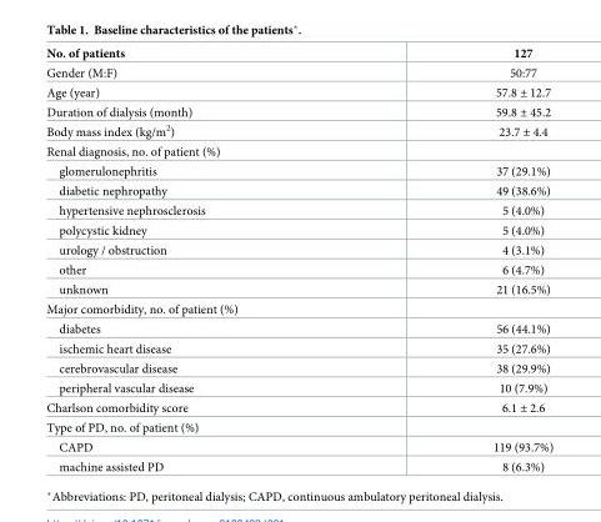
<table><thead><tr><td>No. of patients</td><td>127</td></tr></thead><tbody><tr><td>Gender (M:F)</td><td>50:77</td></tr><tr><td>Age (year)</td><td>57.8 ± 12.7</td></tr><tr><td>Duration of dialysis (month)</td><td>59.8 ± 45.2</td></tr><tr><td>Body mass index (kg/m<sup>2</sup>)</td><td>23.7 ± 4.4</td></tr><tr><td colspan="2">Renal diagnosis, no. of patient (%)</td></tr><tr><td>glomerulonephritis</td><td>37 (29.1%)</td></tr><tr><td>diabetic nephropathy</td><td>49 (38.6%)</td></tr><tr><td>hypertensive nephrosclerosis</td><td>5 (4.0%)</td></tr><tr><td>polycystic kidney</td><td>5 (4.0%)</td></tr><tr><td>urology / obstruction</td><td>4 (3.1%)</td></tr><tr><td>other</td><td>6 (4.7%)</td></tr><tr><td>unknown</td><td>21 (16.5%)</td></tr><tr><td colspan="2">Major comorbidity, no. of patient (%)</td></tr><tr><td>diabetes</td><td>56 (44.1%)</td></tr><tr><td>ischemic heart disease</td><td>35 (27.6%)</td></tr><tr><td>cerebrovascular disease</td><td>38 (29.9%)</td></tr><tr><td>peripheral vascular disease</td><td>10 (7.9%)</td></tr><tr><td>Charlson comorbidity score</td><td>6.1 ± 2.6</td></tr><tr><td colspan="2">Type of PD, no. of patient (%)</td></tr><tr><td>CAPD</td><td>119 (93.7%)</td></tr><tr><td>machine assisted PD</td><td>8 (6.3%)</td></tr></tbody></table>